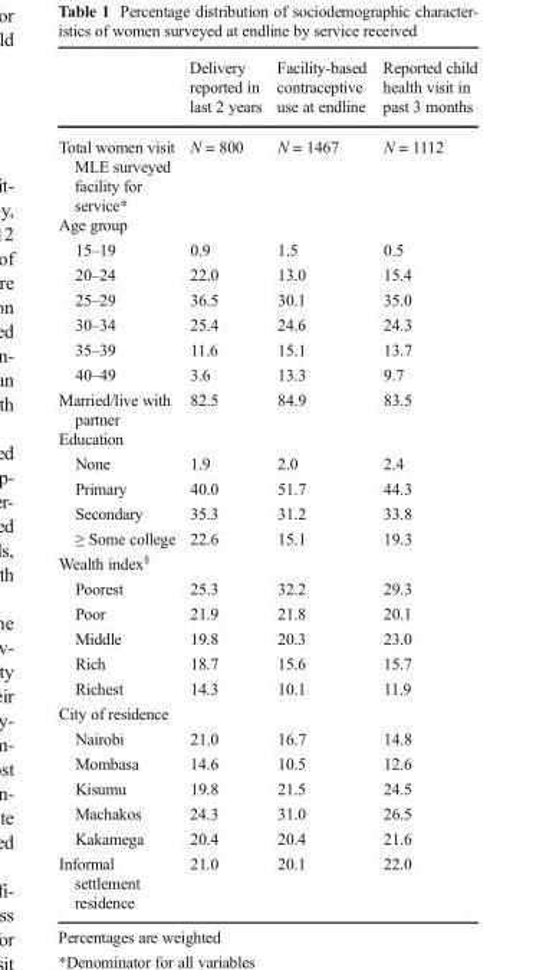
<table><thead><tr><td></td><td>Delivery reported in last 2 years</td><td>Facility-based contraceptive use at endline</td><td>Reported child health visit in past 3 months</td></tr></thead><tbody><tr><td>Total women visit MLE surveyed facility for service*</td><td>N = 800</td><td>N = 1467</td><td>N = 1112</td></tr><tr><td colspan="4">Age group</td></tr><tr><td>15–19</td><td>0.9</td><td>1.5</td><td>0.5</td></tr><tr><td>20–24</td><td>22.0</td><td>13.0</td><td>15.4</td></tr><tr><td>25–29</td><td>36.5</td><td>30.1</td><td>35.0</td></tr><tr><td>30–34</td><td>25.4</td><td>24.6</td><td>24.3</td></tr><tr><td>35–39</td><td>11.6</td><td>15.1</td><td>13.7</td></tr><tr><td>40–49</td><td>3.6</td><td>13.3</td><td>9.7</td></tr><tr><td>Married/live with partner</td><td>82.5</td><td>84.9</td><td>83.5</td></tr><tr><td colspan="4">Education</td></tr><tr><td>None</td><td>1.9</td><td>2.0</td><td>2.4</td></tr><tr><td>Primary</td><td>40.0</td><td>51.7</td><td>44.3</td></tr><tr><td>Secondary</td><td>35.3</td><td>31.2</td><td>33.8</td></tr><tr><td>≥ Some college</td><td>22.6</td><td>15.1</td><td>19.3</td></tr><tr><td colspan="4">Wealth index<sup>§</sup></td></tr><tr><td>Poorest</td><td>25.3</td><td>32.2</td><td>29.3</td></tr><tr><td>Poor</td><td>21.9</td><td>21.8</td><td>20.1</td></tr><tr><td>Middle</td><td>19.8</td><td>20.3</td><td>23.0</td></tr><tr><td>Rich</td><td>18.7</td><td>15.6</td><td>15.7</td></tr><tr><td>Richest</td><td>14.3</td><td>10.1</td><td>11.9</td></tr><tr><td colspan="4">City of residence</td></tr><tr><td>Nairobi</td><td>21.0</td><td>16.7</td><td>14.8</td></tr><tr><td>Mombasa</td><td>14.6</td><td>10.5</td><td>12.6</td></tr><tr><td>Kisumu</td><td>19.8</td><td>21.5</td><td>24.5</td></tr><tr><td>Machakos</td><td>24.3</td><td>31.0</td><td>26.5</td></tr><tr><td>Kakamega</td><td>20.4</td><td>20.4</td><td>21.6</td></tr><tr><td>Informal settlement residence</td><td>21.0</td><td>20.1</td><td>22.0</td></tr></tbody></table>